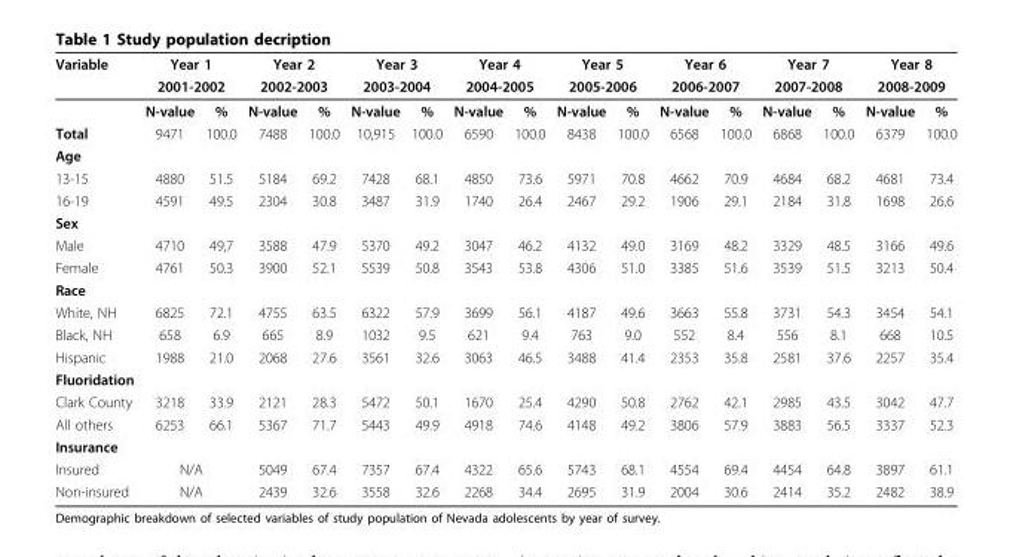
<table><thead><tr><td rowspan="3">Variable</td><td rowspan="2" colspan="2">Year 1 2001-2002</td><td rowspan="2" colspan="2">Year 2 2002-2003</td><td rowspan="2" colspan="2">Year 3 2003-2004</td><td rowspan="2" colspan="2">Year 4 2004-2005</td><td rowspan="2" colspan="2">Year 5 2005-2006</td><td rowspan="2" colspan="2">Year 6 2006-2007</td><td rowspan="2" colspan="2">Year 7 2007-2008</td><td rowspan="2" colspan="2">Year 8 2008-2009</td></tr><tr></tr><tr><td>N-value</td><td>%</td><td>N-value</td><td>%</td><td>N-value</td><td>%</td><td>N-value</td><td>%</td><td>N-value</td><td>%</td><td>N-value</td><td>%</td><td>N-value</td><td>%</td><td>N-value</td><td>%</td></tr></thead><tbody><tr><td>Total</td><td>9471</td><td>100.0</td><td>7488</td><td>100.0</td><td>10,915</td><td>100.0</td><td>6590</td><td>100.0</td><td>8438</td><td>100.0</td><td>6568</td><td>100.0</td><td>6868</td><td>100.0</td><td>6379</td><td>100.0</td></tr><tr><td colspan="17">Age</td></tr><tr><td>13-15</td><td>4880</td><td>51.5</td><td>5184</td><td>69.2</td><td>7428</td><td>68.1</td><td>4850</td><td>73.6</td><td>5971</td><td>70.8</td><td>4662</td><td>70.9</td><td>4684</td><td>68.2</td><td>4681</td><td>73.4</td></tr><tr><td>16-19</td><td>4591</td><td>49.5</td><td>2304</td><td>30.8</td><td>3487</td><td>31.9</td><td>1740</td><td>26.4</td><td>2467</td><td>29.2</td><td>1906</td><td>29.1</td><td>2184</td><td>31.8</td><td>1698</td><td>26.6</td></tr><tr><td colspan="17">Sex</td></tr><tr><td>Male</td><td>4710</td><td>49,7</td><td>3588</td><td>47.9</td><td>5370</td><td>49.2</td><td>3047</td><td>46.2</td><td>4132</td><td>49.0</td><td>3169</td><td>48.2</td><td>3329</td><td>48.5</td><td>3166</td><td>49.6</td></tr><tr><td>Female</td><td>4761</td><td>50.3</td><td>3900</td><td>52.1</td><td>5539</td><td>50.8</td><td>3543</td><td>53.8</td><td>4306</td><td>51.0</td><td>3385</td><td>51.6</td><td>3539</td><td>51.5</td><td>3213</td><td>50.4</td></tr><tr><td colspan="17">Race</td></tr><tr><td>White, NH</td><td>6825</td><td>72.1</td><td>4755</td><td>63.5</td><td>6322</td><td>57.9</td><td>3699</td><td>56.1</td><td>4187</td><td>49.6</td><td>3663</td><td>55.8</td><td>3731</td><td>54.3</td><td>3454</td><td>54.1</td></tr><tr><td>Black, NH</td><td>658</td><td>6.9</td><td>665</td><td>8.9</td><td>1032</td><td>9.5</td><td>621</td><td>9.4</td><td>763</td><td>9.0</td><td>552</td><td>8.4</td><td>556</td><td>8.1</td><td>668</td><td>10.5</td></tr><tr><td>Hispanic</td><td>1988</td><td>21.0</td><td>2068</td><td>27.6</td><td>3561</td><td>32.6</td><td>3063</td><td>46.5</td><td>3488</td><td>41.4</td><td>2353</td><td>35.8</td><td>2581</td><td>37.6</td><td>2257</td><td>35.4</td></tr><tr><td colspan="17">Fluoridation</td></tr><tr><td>Clark County</td><td>3218</td><td>33.9</td><td>2121</td><td>28.3</td><td>5472</td><td>50.1</td><td>1670</td><td>25.4</td><td>4290</td><td>50.8</td><td>2762</td><td>42.1</td><td>2985</td><td>43.5</td><td>3042</td><td>47.7</td></tr><tr><td>All others</td><td>6253</td><td>66.1</td><td>5367</td><td>71.7</td><td>5443</td><td>49.9</td><td>4918</td><td>74.6</td><td>4148</td><td>49.2</td><td>3806</td><td>57.9</td><td>3883</td><td>56.5</td><td>3337</td><td>52.3</td></tr><tr><td colspan="17">Insurance</td></tr><tr><td>Insured</td><td colspan="2">N/A</td><td>5049</td><td>67.4</td><td>7357</td><td>67.4</td><td>4322</td><td>65.6</td><td>5743</td><td>68.1</td><td>4554</td><td>69.4</td><td>4454</td><td>64.8</td><td>3897</td><td>61.1</td></tr><tr><td>Non-insured</td><td colspan="2">N/A</td><td>2439</td><td>32.6</td><td>3558</td><td>32.6</td><td>2268</td><td>34.4</td><td>2695</td><td>31.9</td><td>2004</td><td>30.6</td><td>2414</td><td>35.2</td><td>2482</td><td>38.9</td></tr></tbody></table>